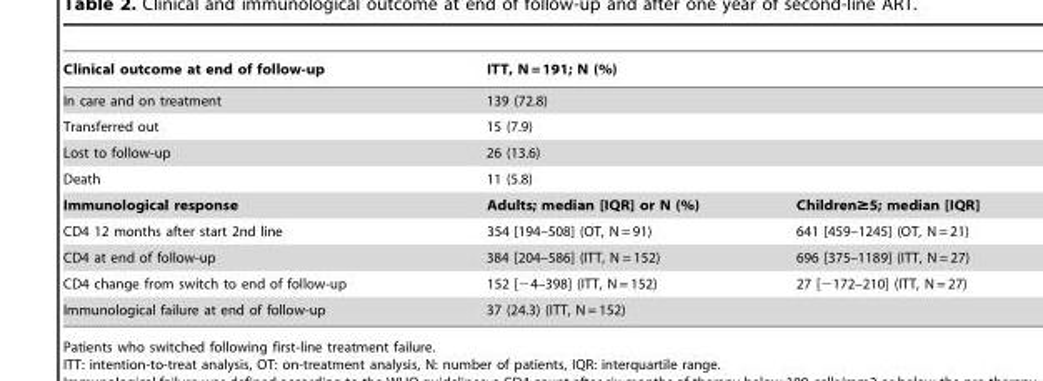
<table><thead><tr><td>Clinical outcome at end of follow-up</td><td colspan="2">ITT, N = 191; N (%)</td></tr></thead><tbody><tr><td>In care and on treatment</td><td colspan="2">139 (72.8)</td></tr><tr><td>Transferred out</td><td colspan="2">15 (7.9)</td></tr><tr><td>Lost to follow-up</td><td colspan="2">26 (13.6)</td></tr><tr><td>Death</td><td colspan="2">11 (5.8)</td></tr><tr><td>Immunological response</td><td>Adults; median [IQR] or N (%)</td><td>Children≥5; median [IQR]</td></tr><tr><td>CD4 12 months after start 2nd line</td><td>354 [194–508] (OT, N = 91)</td><td>641 [459–1245] (OT, N = 21)</td></tr><tr><td>CD4 at end of follow-up</td><td>384 [204–586] (ITT, N = 152)</td><td>696 [375–1189] (ITT, N = 27)</td></tr><tr><td>CD4 change from switch to end of follow-up</td><td>152 [−4–398] (ITT, N = 152)</td><td>27 [−172–210] (ITT, N = 27)</td></tr><tr><td>Immunological failure at end of follow-up</td><td colspan="2">37 (24.3) (ITT, N = 152)</td></tr></tbody></table>